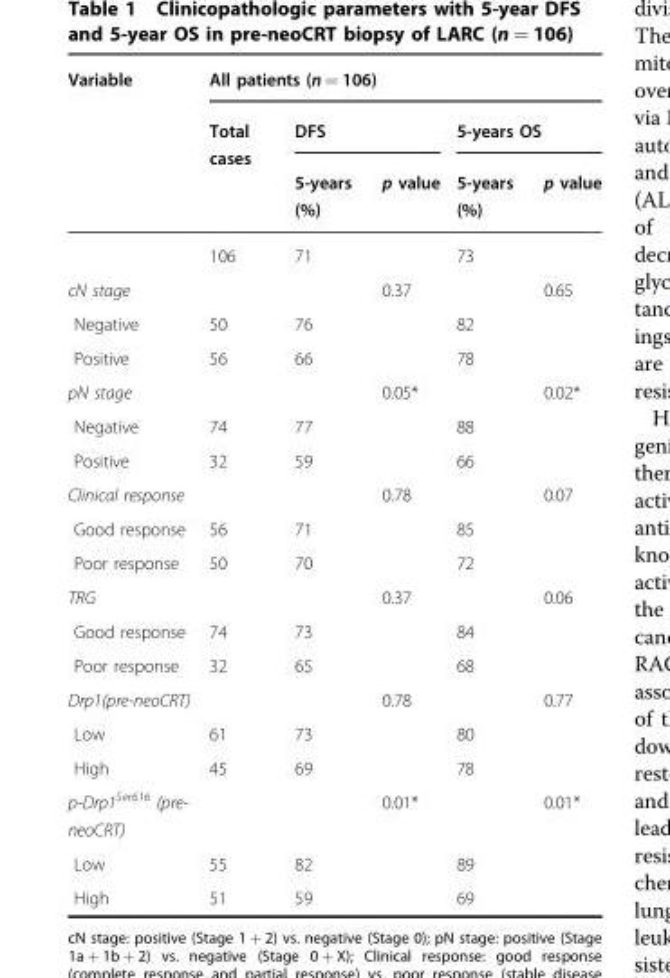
<table><thead><tr><td rowspan="3">Variable</td><td colspan="5">All patients (n = 106)</td></tr><tr><td rowspan="2">Total cases</td><td colspan="2">DFS</td><td colspan="2">5-years OS</td></tr><tr><td>5-years (%)</td><td>p value</td><td>5-years (%)</td><td>p value</td></tr></thead><tbody><tr><td></td><td>106</td><td>71</td><td></td><td>73</td><td></td></tr><tr><td>cN stage</td><td></td><td></td><td>0.37</td><td></td><td>0.65</td></tr><tr><td>Negative</td><td>50</td><td>76</td><td></td><td>82</td><td></td></tr><tr><td>Positive</td><td>56</td><td>66</td><td></td><td>78</td><td></td></tr><tr><td>pN stage</td><td></td><td></td><td>0.05*</td><td></td><td>0.02*</td></tr><tr><td>Negative</td><td>74</td><td>77</td><td></td><td>88</td><td></td></tr><tr><td>Positive</td><td>32</td><td>59</td><td></td><td>66</td><td></td></tr><tr><td>Clinical response</td><td></td><td></td><td>0.78</td><td></td><td>0.07</td></tr><tr><td>Good response</td><td>56</td><td>71</td><td></td><td>85</td><td></td></tr><tr><td>Poor response</td><td>50</td><td>70</td><td></td><td>72</td><td></td></tr><tr><td>TRG</td><td></td><td></td><td>0.37</td><td></td><td>0.06</td></tr><tr><td>Good response</td><td>74</td><td>73</td><td></td><td>84</td><td></td></tr><tr><td>Poor response</td><td>32</td><td>65</td><td></td><td>68</td><td></td></tr><tr><td>Drp1(pre-neoCRT)</td><td></td><td></td><td>0.78</td><td></td><td>0.77</td></tr><tr><td>Low</td><td>61</td><td>73</td><td></td><td>80</td><td></td></tr><tr><td>High</td><td>45</td><td>69</td><td></td><td>78</td><td></td></tr><tr><td>p-Drp1<sup>Ser616</sup> (pre- neoCRT)</td><td></td><td></td><td>0.01*</td><td></td><td>0.01*</td></tr><tr><td>Low</td><td>55</td><td>82</td><td></td><td>89</td><td></td></tr><tr><td>High</td><td>51</td><td>59</td><td></td><td>69</td><td></td></tr></tbody></table>